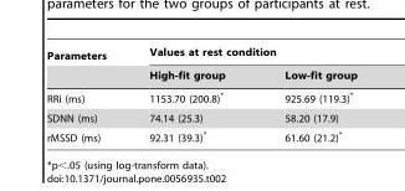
<table><thead><tr><td rowspan="2">Parameters</td><td colspan="2">Values at rest condition</td></tr><tr><td>High-fit group</td><td>Low-fit group</td></tr></thead><tbody><tr><td>RRi (ms)</td><td>1153.70 (200.8)*</td><td>925.69 (119.3)*</td></tr><tr><td>SDNN (ms)</td><td>74.14 (25.3)</td><td>58.20 (17.9)</td></tr><tr><td>rMSSD (ms)</td><td>92.31 (39.3)*</td><td>61.60 (21.2)*</td></tr></tbody></table>